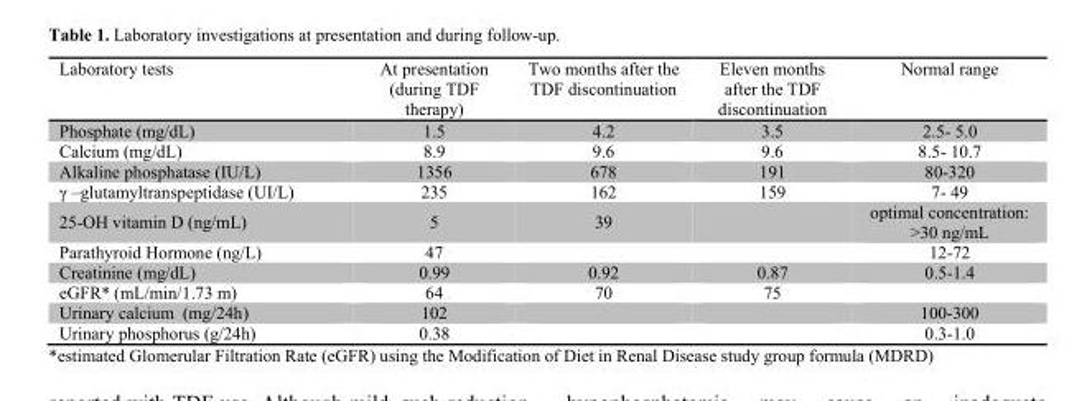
<table><thead><tr><td>Laboratory tests</td><td>At presentation (during TDF therapy)</td><td>Two months after the TDF discontinuation</td><td>Eleven months after the TDF discontinuation</td><td>Normal range</td></tr></thead><tbody><tr><td>Phosphate (mg/dL)</td><td>1.5</td><td>4.2</td><td>3.5</td><td>2.5- 5.0</td></tr><tr><td>Calcium (mg/dL)</td><td>8.9</td><td>9.6</td><td>9.6</td><td>8.5- 10.7</td></tr><tr><td>Alkaline phosphatase (IU/L)</td><td>1356</td><td>678</td><td>191</td><td>80-320</td></tr><tr><td>γ –glutamyltranspeptidase (UI/L)</td><td>235</td><td>162</td><td>159</td><td>7- 49</td></tr><tr><td>25-OH vitamin D (ng/mL)</td><td>5</td><td>39</td><td></td><td>optimal concentration: &gt;30 ng/mL</td></tr><tr><td>Parathyroid Hormone (ng/L)</td><td>47</td><td></td><td></td><td>12-72</td></tr><tr><td>Creatinine (mg/dL)</td><td>0.99</td><td>0.92</td><td>0.87</td><td>0.5-1.4</td></tr><tr><td>eGFR* (mL/min/1.73 m)</td><td>64</td><td>70</td><td>75</td><td></td></tr><tr><td>Urinary calcium (mg/24h)</td><td>102</td><td></td><td></td><td>100-300</td></tr><tr><td>Urinary phosphorus (g/24h)</td><td>0.38</td><td></td><td></td><td>0.3-1.0</td></tr></tbody></table>